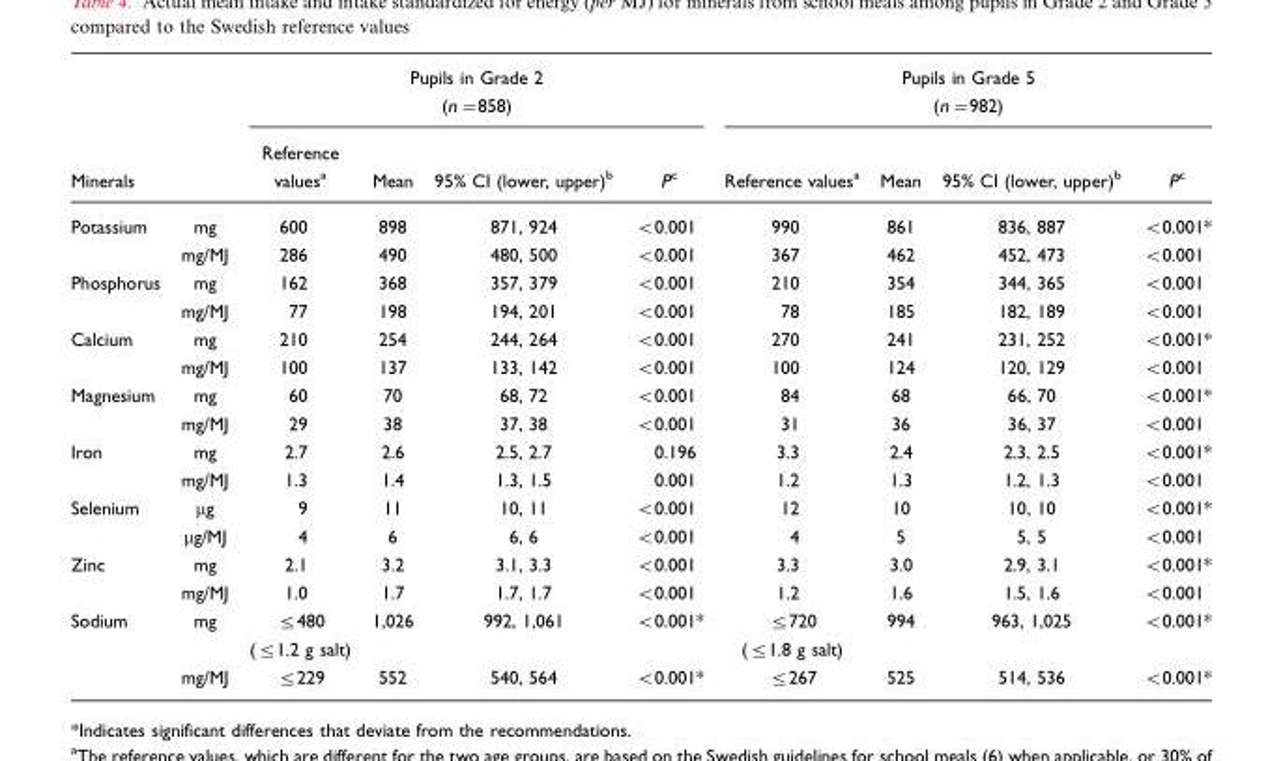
<table><thead><tr><td rowspan="2">Minerals</td><td rowspan="2"></td><td colspan="4">Pupils in Grade 2 (n=858)</td><td colspan="4">Pupils in Grade 5 (n=982)</td></tr><tr><td>Reference values<sup>a</sup></td><td>Mean</td><td>95% CI (lower, upper)<sup>b</sup></td><td>Pc</td><td>Reference values<sup>a</sup></td><td>Mean</td><td>95% CI (lower, upper)<sup>b</sup></td><td>Pc</td></tr></thead><tbody><tr><td rowspan="2">Potassium</td><td>mg</td><td>600</td><td>898</td><td>871, 924</td><td>&lt;0.001</td><td>990</td><td>861</td><td>836, 887</td><td>&lt;0.001*</td></tr><tr><td>mg/MJ</td><td>286</td><td>490</td><td>480, 500</td><td>&lt;0.001</td><td>367</td><td>462</td><td>452, 473</td><td>&lt;0.001</td></tr><tr><td rowspan="2">Phosphorus</td><td>mg</td><td>162</td><td>368</td><td>357, 379</td><td>&lt;0.001</td><td>210</td><td>354</td><td>344, 365</td><td>&lt;0.001</td></tr><tr><td>mg/MJ</td><td>77</td><td>198</td><td>194, 201</td><td>&lt;0.001</td><td>78</td><td>185</td><td>182, 189</td><td>&lt;0.001</td></tr><tr><td rowspan="2">Calcium</td><td>mg</td><td>210</td><td>254</td><td>244, 264</td><td>&lt;0.001</td><td>270</td><td>241</td><td>231, 252</td><td>&lt;0.001*</td></tr><tr><td>mg/MJ</td><td>100</td><td>137</td><td>133, 142</td><td>&lt;0.001</td><td>100</td><td>124</td><td>120, 129</td><td>&lt;0.001</td></tr><tr><td rowspan="2">Magnesium</td><td>mg</td><td>60</td><td>70</td><td>68, 72</td><td>&lt;0.001</td><td>84</td><td>68</td><td>66, 70</td><td>&lt;0.001*</td></tr><tr><td>mg/MJ</td><td>29</td><td>38</td><td>37, 38</td><td>&lt;0.001</td><td>31</td><td>36</td><td>36, 37</td><td>&lt;0.001</td></tr><tr><td rowspan="2">Iron</td><td>mg</td><td>2.7</td><td>2.6</td><td>2.5, 2.7</td><td>0.196</td><td>3.3</td><td>2.4</td><td>2.3, 2.5</td><td>&lt;0.001*</td></tr><tr><td>mg/MJ</td><td>1.3</td><td>1.4</td><td>1.3, 1.5</td><td>0.001</td><td>1.2</td><td>1.3</td><td>1.2, 1.3</td><td>&lt;0.001</td></tr><tr><td rowspan="2">Selenium</td><td>µg</td><td>9</td><td>11</td><td>10, 11</td><td>&lt;0.001</td><td>12</td><td>10</td><td>10, 10</td><td>&lt;0.001*</td></tr><tr><td>µg/MJ</td><td>4</td><td>6</td><td>6, 6</td><td>&lt;0.001</td><td>4</td><td>5</td><td>5, 5</td><td>&lt;0.001</td></tr><tr><td rowspan="2">Zinc</td><td>mg</td><td>2.1</td><td>3.2</td><td>3.1, 3.3</td><td>&lt;0.001</td><td>3.3</td><td>3.0</td><td>2.9, 3.1</td><td>&lt;0.001*</td></tr><tr><td>mg/MJ</td><td>1.0</td><td>1.7</td><td>1.7, 1.7</td><td>&lt;0.001</td><td>1.2</td><td>1.6</td><td>1.5, 1.6</td><td>&lt;0.001</td></tr><tr><td rowspan="3">Sodium</td><td>mg</td><td>≤480</td><td>1,026</td><td>992, 1,061</td><td>&lt;0.001*</td><td>≤720</td><td>994</td><td>963, 1,025</td><td>&lt;0.001*</td></tr><tr><td></td><td>(≤1.2 g salt)</td><td></td><td></td><td></td><td>(≤1.8 g salt)</td><td></td><td></td><td></td></tr><tr><td>mg/MJ</td><td>≤229</td><td>552</td><td>540, 564</td><td>&lt;0.001*</td><td>≤267</td><td>525</td><td>514, 536</td><td>&lt;0.001*</td></tr></tbody></table>